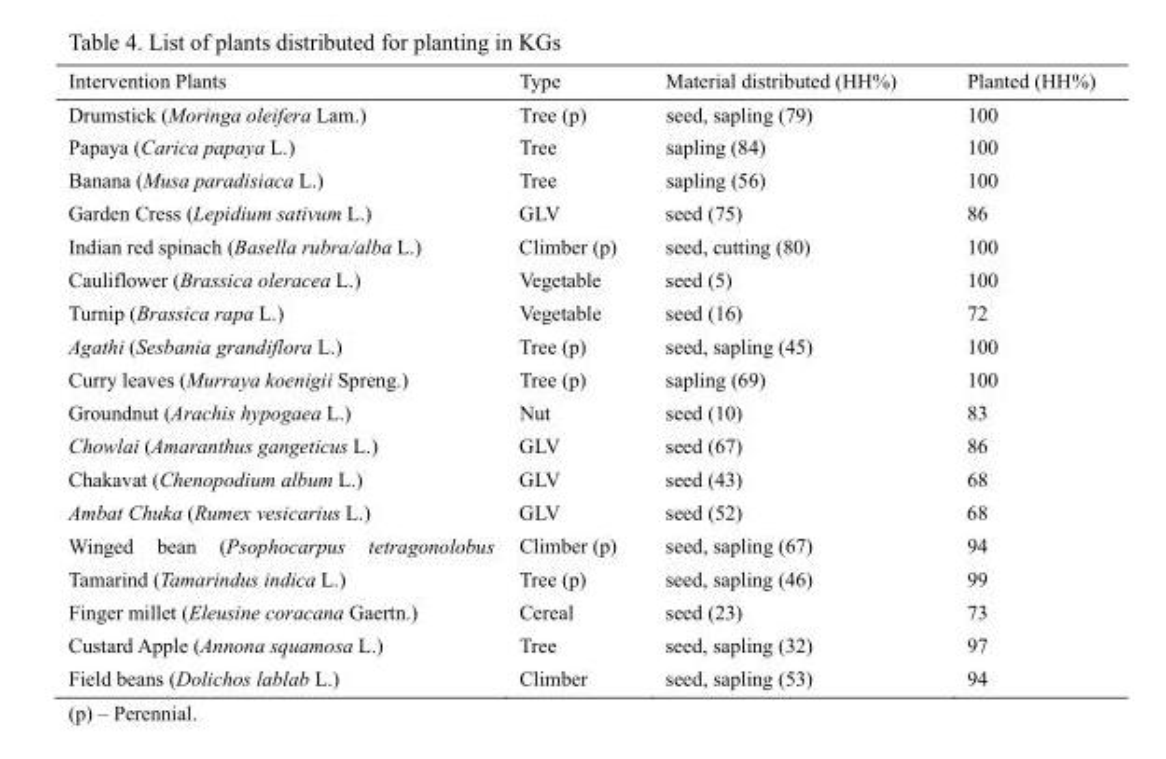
<table><thead><tr><td>Intervention Plants</td><td>Type</td><td>Material distributed (HH%)</td><td>Planted (HH%)</td></tr></thead><tbody><tr><td>Drumstick (Moringa oleifera Lam.)</td><td>Tree (p)</td><td>seed, sapling (79)</td><td>100</td></tr><tr><td>Papaya (Carica papaya L.)</td><td>Tree</td><td>sapling (84)</td><td>100</td></tr><tr><td>Banana (Musa paradisiaca L.)</td><td>Tree</td><td>sapling (56)</td><td>100</td></tr><tr><td>Garden Cress (Lepidium sativum L.)</td><td>GLV</td><td>seed (75)</td><td>86</td></tr><tr><td>Indian red spinach (Basella rubra/alba L.)</td><td>Climber (p)</td><td>seed, cutting (80)</td><td>100</td></tr><tr><td>Cauliflower (Brassica oleracea L.)</td><td>Vegetable</td><td>seed (5)</td><td>100</td></tr><tr><td>Turnip (Brassica rapa L.)</td><td>Vegetable</td><td>seed (16)</td><td>72</td></tr><tr><td>Agathi (Sesbania grandiflora L.)</td><td>Tree (p)</td><td>seed, sapling (45)</td><td>100</td></tr><tr><td>Curry leaves (Murraya koenigii Spreng.)</td><td>Tree (p)</td><td>sapling (69)</td><td>100</td></tr><tr><td>Groundnut (Arachis hypogaea L.)</td><td>Nut</td><td>seed (10)</td><td>83</td></tr><tr><td>Chowlai (Amaranthus gangeticus L.)</td><td>GLV</td><td>seed (67)</td><td>86</td></tr><tr><td>Chakavat (Chenopodium album L.)</td><td>GLV</td><td>seed (43)</td><td>68</td></tr><tr><td>Ambat Chuka (Rumex vesicarius L.)</td><td>GLV</td><td>seed (52)</td><td>68</td></tr><tr><td>Winged bean (Psophocarpus tetragonolobus</td><td>Climber (p)</td><td>seed, sapling (67)</td><td>94</td></tr><tr><td>Tamarind (Tamarindus indica L.)</td><td>Tree (p)</td><td>seed, sapling (46)</td><td>99</td></tr><tr><td>Finger millet (Eleusine coracana Gaertn.)</td><td>Cereal</td><td>seed (23)</td><td>73</td></tr><tr><td>Custard Apple (Annona squamosa L.)</td><td>Tree</td><td>seed, sapling (32)</td><td>97</td></tr><tr><td>Field beans (Dolichos lablab L.)</td><td>Climber</td><td>seed, sapling (53)</td><td>94</td></tr></tbody></table>